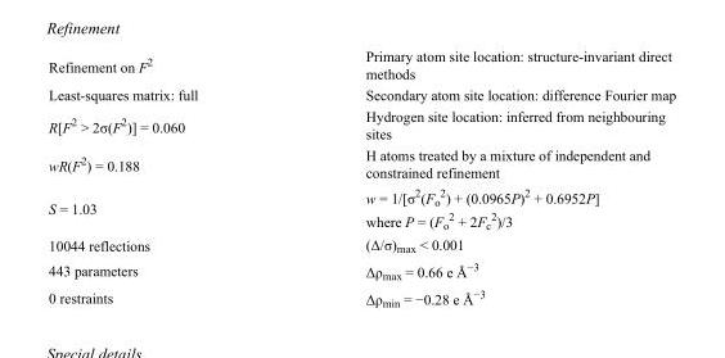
<table><tbody><tr><td>Refinement on F<sup>2</sup></td><td>Primary atom site location: structure-invariant direct methods</td></tr><tr><td>Least-squares matrix: full</td><td>Secondary atom site location: difference Fourier map</td></tr><tr><td>R[F<sup>2</sup> &gt; 2σ(F<sup>2</sup>)] = 0.060</td><td>Hydrogen site location: inferred from neighbouring sites</td></tr><tr><td>wR(F<sup>2</sup>) = 0.188</td><td>H atoms treated by a mixture of independent and constrained refinement</td></tr><tr><td>S = 1.03</td><td>w = 1/[σ<sup>2</sup>(F<sub>o</sub> <sup>2</sup>) + (0.0965P)<sup>2</sup> + 0.6952P] where P = (F<sub>o</sub> <sup>2</sup> + 2F<sub>c</sub> <sup>2</sup>)/3</td></tr><tr><td>10044 reflections</td><td>(Δ/σ)<sub>max</sub> &lt; 0.001</td></tr><tr><td>443 parameters</td><td>Δρ<sub>max</sub> = 0.66 e Å<sup>−3</sup></td></tr><tr><td>0 restraints</td><td>Δρ<sub>min</sub> = −0.28 e Å<sup>−3</sup></td></tr></tbody></table>